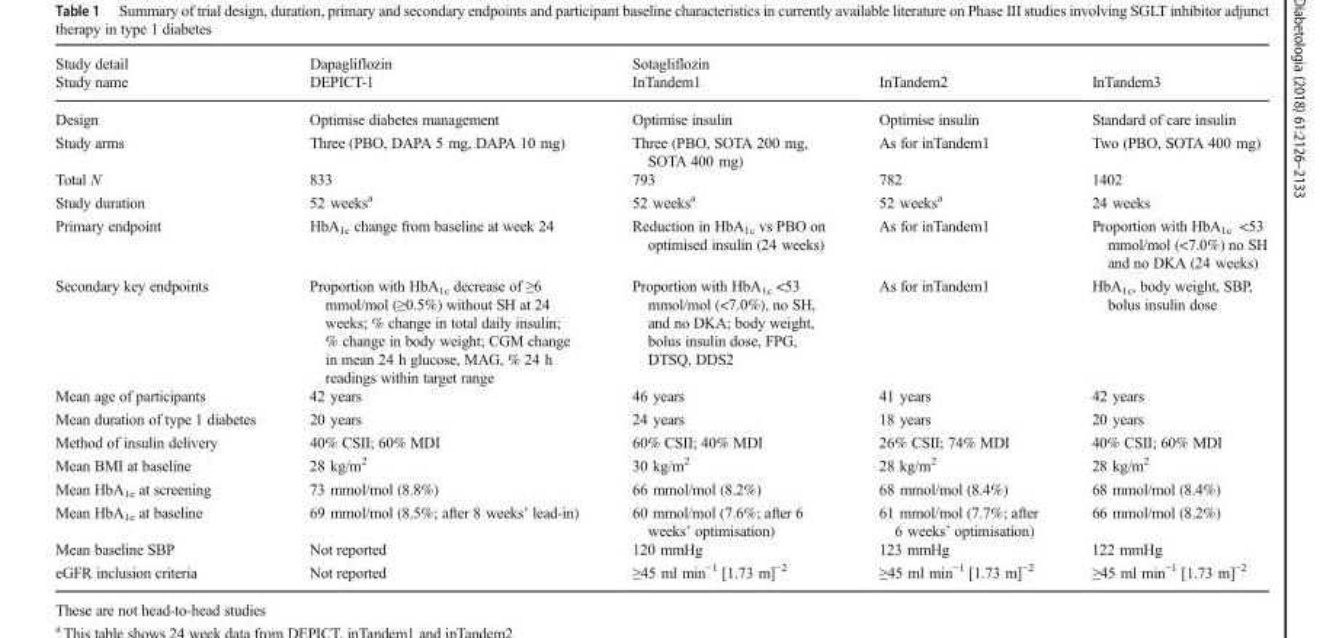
<table><thead><tr><td rowspan="2">Study detail Study name</td><td rowspan="2">Dapagliflozin DEPICT-1</td><td rowspan="2">Sotagliflozin InTandem1</td><td rowspan="2">InTandem2</td><td rowspan="2">InTandem3</td></tr><tr></tr></thead><tbody><tr><td>Design</td><td>Optimise diabetes management</td><td>Optimise insulin</td><td>Optimise insulin</td><td>Standard of care insulin</td></tr><tr><td>Study arms</td><td>Three (PBO, DAPA 5 mg, DAPA 10 mg)</td><td>Three (PBO, SOTA 200 mg, SOTA 400 mg)</td><td>As for inTandem1</td><td>Two (PBO, SOTA 400 mg)</td></tr><tr><td>Total N</td><td>833</td><td>793</td><td>782</td><td>1402</td></tr><tr><td>Study duration</td><td>52 weeks<sup>a</sup></td><td>52 weeks<sup>a</sup></td><td>52 weeks<sup>a</sup></td><td>24 weeks</td></tr><tr><td>Primary endpoint</td><td>HbA<sub>1c</sub> change from baseline at week 24</td><td>Reduction in HbA<sub>1c</sub> vs PBO on optimised insulin (24 weeks)</td><td>As for inTandem1</td><td>Proportion with HbA<sub>1c</sub> &lt;53 mmol/mol (&lt;7.0%) no SH and no DKA (24 weeks)</td></tr><tr><td>Secondary key endpoints</td><td>Proportion with HbA<sub>1c</sub> decrease of ≥6 mmol/mol (≥0.5%) without SH at 24 weeks; % change in total daily insulin; % change in body weight; CGM change in mean 24 h glucose, MAG, % 24 h readings within target range</td><td>Proportion with HbA<sub>1c</sub> &lt;53 mmol/mol (&lt;7.0%), no SH, and no DKA; body weight, bolus insulin dose, FPG, DTSQ, DDS2</td><td>As for inTandem1</td><td>HbA<sub>1c</sub>, body weight, SBP, bolus insulin dose</td></tr><tr><td>Mean age of participants</td><td>42 years</td><td>46 years</td><td>41 years</td><td>42 years</td></tr><tr><td>Mean duration of type 1 diabetes</td><td>20 years</td><td>24 years</td><td>18 years</td><td>20 years</td></tr><tr><td>Method of insulin delivery</td><td>40% CSII; 60% MDI</td><td>60% CSII; 40% MDI</td><td>26% CSII; 74% MDI</td><td>40% CSII; 60% MDI</td></tr><tr><td>Mean BMI at baseline</td><td>28 kg/m<sup>2</sup></td><td>30 kg/m<sup>2</sup></td><td>28 kg/m<sup>2</sup></td><td>28 kg/m<sup>2</sup></td></tr><tr><td>Mean HbA<sub>1c</sub> at screening</td><td>73 mmol/mol (8.8%)</td><td>66 mmol/mol (8.2%)</td><td>68 mmol/mol (8.4%)</td><td>68 mmol/mol (8.4%)</td></tr><tr><td>Mean HbA<sub>1c</sub> at baseline</td><td>69 mmol/mol (8.5%; after 8 weeks’ lead-in)</td><td>60 mmol/mol (7.6%; after 6 weeks’ optimisation)</td><td>61 mmol/mol (7.7%; after 6 weeks’ optimisation)</td><td>66 mmol/mol (8.2%)</td></tr><tr><td>Mean baseline SBP</td><td>Not reported</td><td>120 mmHg</td><td>123 mmHg</td><td>122 mmHg</td></tr><tr><td>eGFR inclusion criteria</td><td>Not reported</td><td>≥45 ml min<sup>−1</sup> [1.73 m]<sup>−2</sup></td><td>≥45 ml min<sup>−1</sup> [1.73 m]<sup>−2</sup></td><td>≥45 ml min<sup>−1</sup> [1.73 m]<sup>−2</sup></td></tr></tbody></table>